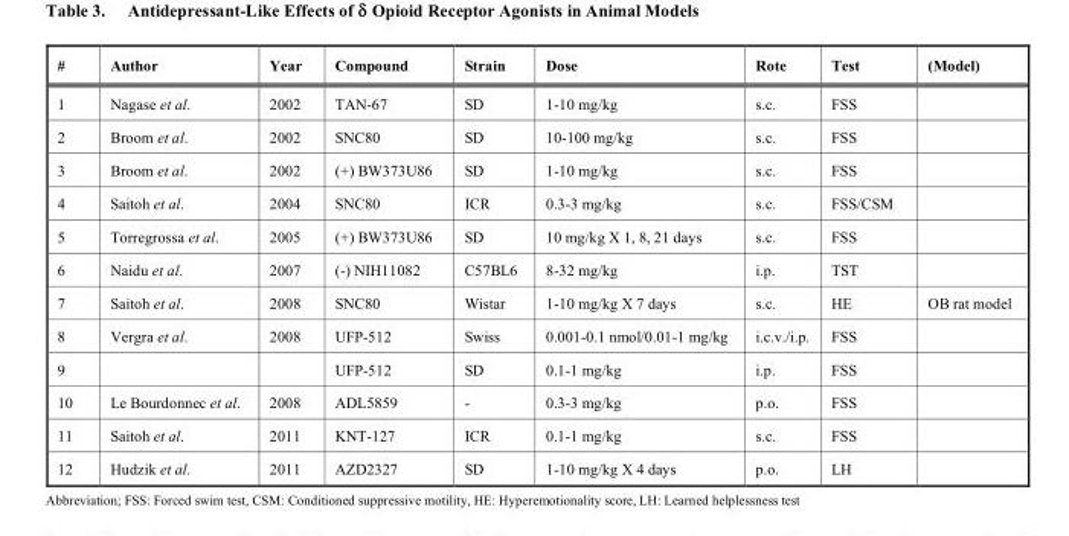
<table><thead><tr><td>#</td><td>Author</td><td>Year</td><td>Compound</td><td>Strain</td><td>Dose</td><td>Rote</td><td>Test</td><td>(Model)</td></tr></thead><tbody><tr><td>1</td><td>Nagase et al.</td><td>2002</td><td>TAN-67</td><td>SD</td><td>1-10 mg/kg</td><td>s.c.</td><td>FSS</td><td></td></tr><tr><td>2</td><td>Broom et al.</td><td>2002</td><td>SNC80</td><td>SD</td><td>10-100 mg/kg</td><td>s.c.</td><td>FSS</td><td></td></tr><tr><td>3</td><td>Broom et al.</td><td>2002</td><td>(+) BW373U86</td><td>SD</td><td>1-10 mg/kg</td><td>s.c.</td><td>FSS</td><td></td></tr><tr><td>4</td><td>Saitoh et al.</td><td>2004</td><td>SNC80</td><td>ICR</td><td>0.3-3 mg/kg</td><td>s.c.</td><td>FSS/CSM</td><td></td></tr><tr><td>5</td><td>Torregrossa et al.</td><td>2005</td><td>(+) BW373U86</td><td>SD</td><td>10 mg/kg X 1, 8, 21 days</td><td>s.c.</td><td>FSS</td><td></td></tr><tr><td>6</td><td>Naidu et al.</td><td>2007</td><td>(-) NIH11082</td><td>C57BL6</td><td>8-32 mg/kg</td><td>i.p.</td><td>TST</td><td></td></tr><tr><td>7</td><td>Saitoh et al.</td><td>2008</td><td>SNC80</td><td>Wistar</td><td>1-10 mg/kg X 7 days</td><td>s.c.</td><td>HE</td><td>OB rat model</td></tr><tr><td>8</td><td>Vergra et al.</td><td>2008</td><td>UFP-512</td><td>Swiss</td><td>0.001-0.1 nmol/0.01-1 mg/kg</td><td>i.c.v./i.p.</td><td>FSS</td><td></td></tr><tr><td>9</td><td></td><td></td><td>UFP-512</td><td>SD</td><td>0.1-1 mg/kg</td><td>i.p.</td><td>FSS</td><td></td></tr><tr><td>10</td><td>Le Bourdonnec et al.</td><td>2008</td><td>ADL5859</td><td>-</td><td>0.3-3 mg/kg</td><td>p.o.</td><td>FSS</td><td></td></tr><tr><td>11</td><td>Saitoh et al.</td><td>2011</td><td>KNT-127</td><td>ICR</td><td>0.1-1 mg/kg</td><td>s.c.</td><td>FSS</td><td></td></tr><tr><td>12</td><td>Hudzik et al.</td><td>2011</td><td>AZD2327</td><td>SD</td><td>1-10 mg/kg X 4 days</td><td>p.o.</td><td>LH</td><td></td></tr></tbody></table>